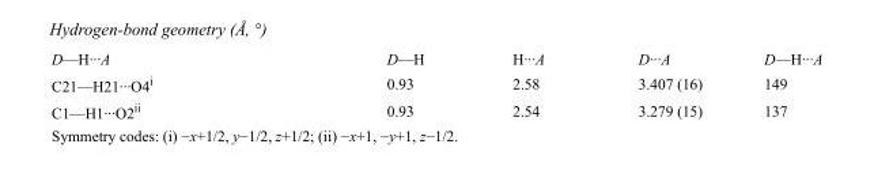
<table><tbody><tr><td>D—H···A</td><td>D—H</td><td>H···A</td><td>D···A</td><td>D—H···A</td></tr><tr><td>C21—H21···O4<sup>i</sup></td><td>0.93</td><td>2.58</td><td>3.407 (16)</td><td>149</td></tr><tr><td>C1—H1···O2<sup>ii</sup></td><td>0.93</td><td>2.54</td><td>3.279 (15)</td><td>137</td></tr></tbody></table>